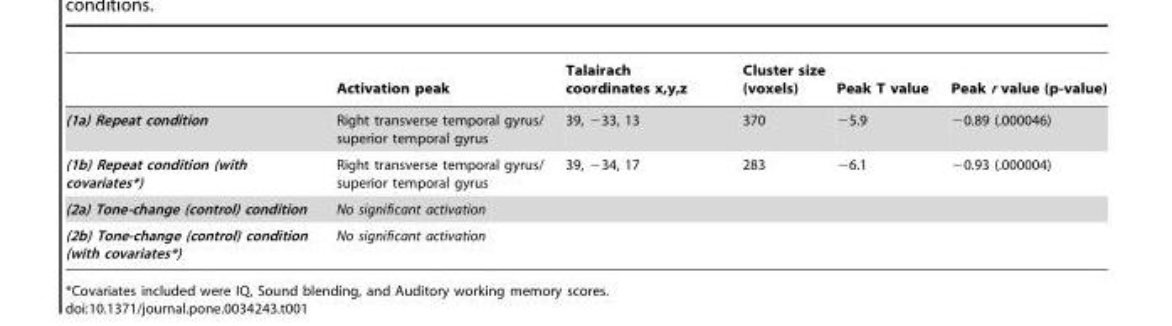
<table><thead><tr><td></td><td>Activation peak</td><td>Talairach coordinates x,y,z</td><td>Cluster size (voxels)</td><td>Peak T value</td><td>Peak r value (p-value)</td></tr></thead><tbody><tr><td>(1a) Repeat condition</td><td>Right transverse temporal gyrus/ superior temporal gyrus</td><td>39, −33, 13</td><td>370</td><td>−5.9</td><td>−0.89 (.000046)</td></tr><tr><td>(1b) Repeat condition (with covariates*)</td><td>Right transverse temporal gyrus/ superior temporal gyrus</td><td>39, −34, 17</td><td>283</td><td>−6.1</td><td>−0.93 (.000004)</td></tr><tr><td>(2a) Tone-change (control) condition</td><td colspan="5">No significant activation</td></tr><tr><td>(2b) Tone-change (control) condition (with covariates*)</td><td colspan="5">No significant activation</td></tr></tbody></table>